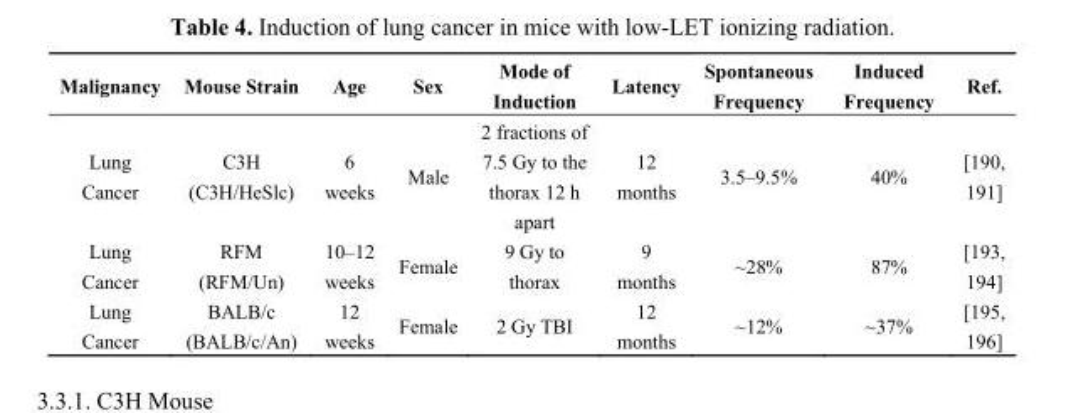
<table><thead><tr><td>Malignancy</td><td>Mouse Strain</td><td>Age</td><td>Sex</td><td>Mode of Induction</td><td>Latency</td><td>Spontaneous Frequency</td><td>Induced Frequency</td><td>Ref.</td></tr></thead><tbody><tr><td>Lung Cancer</td><td>C3H (C3H/HeSlc)</td><td>6 weeks</td><td>Male</td><td>2 fractions of 7.5 Gy to the thorax 12 h apart</td><td>12 months</td><td>3.5–9.5%</td><td>40%</td><td>[190, 191]</td></tr><tr><td>Lung Cancer</td><td>RFM (RFM/Un)</td><td>10–12 weeks</td><td>Female</td><td>9 Gy to thorax</td><td>9 months</td><td>~28%</td><td>87%</td><td>[193, 194]</td></tr><tr><td>Lung Cancer</td><td>BALB/c (BALB/c/An)</td><td>12 weeks</td><td>Female</td><td>2 Gy TBI</td><td>12 months</td><td>~12%</td><td>~37%</td><td>[195, 196]</td></tr></tbody></table>